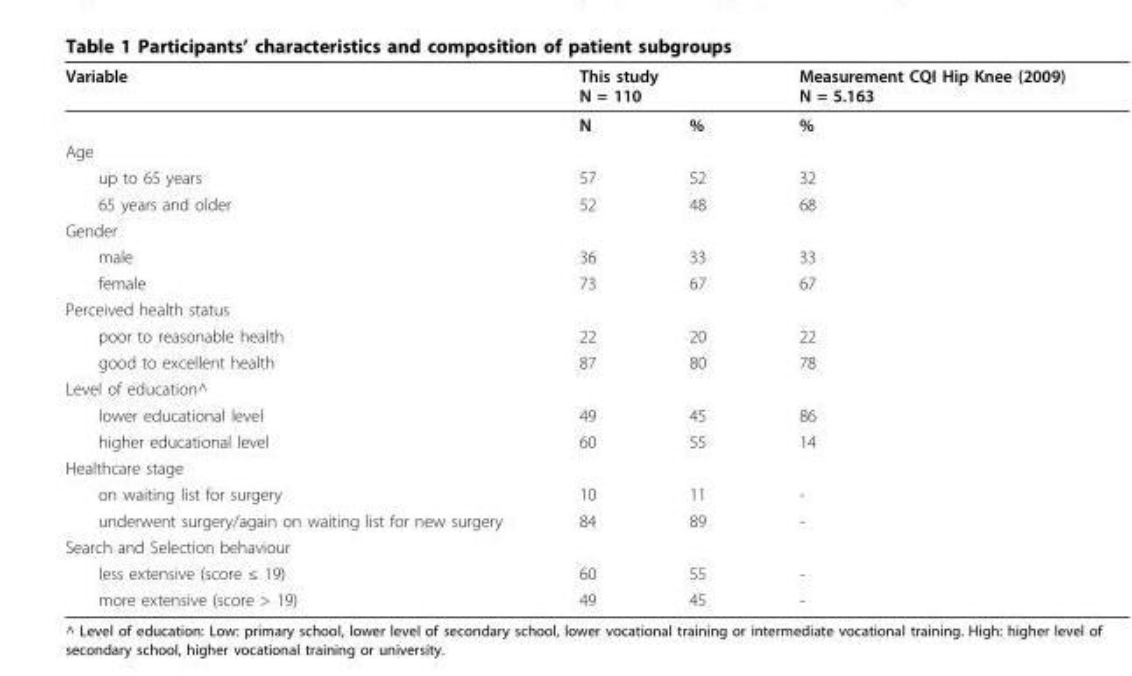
<table><thead><tr><td rowspan="2">Variable</td><td colspan="2">This study N = 110</td><td rowspan="2">Measurement CQI Hip Knee (2009) N = 5.163 %</td></tr><tr><td>N</td><td>%</td></tr></thead><tbody><tr><td colspan="4">Age</td></tr><tr><td>up to 65 years</td><td>57</td><td>52</td><td>32</td></tr><tr><td>65 years and older</td><td>52</td><td>48</td><td>68</td></tr><tr><td colspan="4">Gender</td></tr><tr><td>male</td><td>36</td><td>33</td><td>33</td></tr><tr><td>female</td><td>73</td><td>67</td><td>67</td></tr><tr><td colspan="4">Perceived health status</td></tr><tr><td>poor to reasonable health</td><td>22</td><td>20</td><td>22</td></tr><tr><td>good to excellent health</td><td>87</td><td>80</td><td>78</td></tr><tr><td colspan="4">Level of education^</td></tr><tr><td>lower educational level</td><td>49</td><td>45</td><td>86</td></tr><tr><td>higher educational level</td><td>60</td><td>55</td><td>14</td></tr><tr><td colspan="4">Healthcare stage</td></tr><tr><td>on waiting list for surgery</td><td>10</td><td>11</td><td>-</td></tr><tr><td>underwent surgery/again on waiting list for new surgery</td><td>84</td><td>89</td><td>-</td></tr><tr><td colspan="4">Search and Selection behaviour</td></tr><tr><td>less extensive (score ≤ 19)</td><td>60</td><td>55</td><td>-</td></tr><tr><td>more extensive (score &gt; 19)</td><td>49</td><td>45</td><td>-</td></tr></tbody></table>